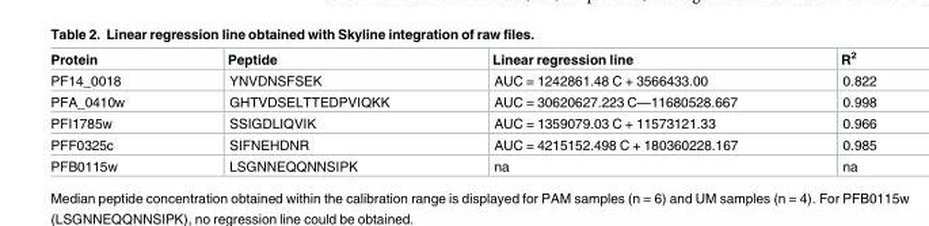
<table><thead><tr><td>Protein</td><td>Peptide</td><td>Linear regression line</td><td>R<sup>2</sup></td></tr></thead><tbody><tr><td>PF14_0018</td><td>YNVDNSFSEK</td><td>AUC = 1242861.48 C + 3566433.00</td><td>0.822</td></tr><tr><td>PFA_0410w</td><td>GHTVDSELTTEDPVIQKK</td><td>AUC = 30620627.223 C—11680528.667</td><td>0.998</td></tr><tr><td>PFI1785w</td><td>SSIGDLIQVIK</td><td>AUC = 1359079.03 C + 11573121.33</td><td>0.966</td></tr><tr><td>PFF0325c</td><td>SIFNEHDNR</td><td>AUC = 4215152.498 C + 180360228.167</td><td>0.985</td></tr><tr><td>PFB0115w</td><td>LSGNNEQQNNSIPK</td><td>na</td><td>na</td></tr></tbody></table>